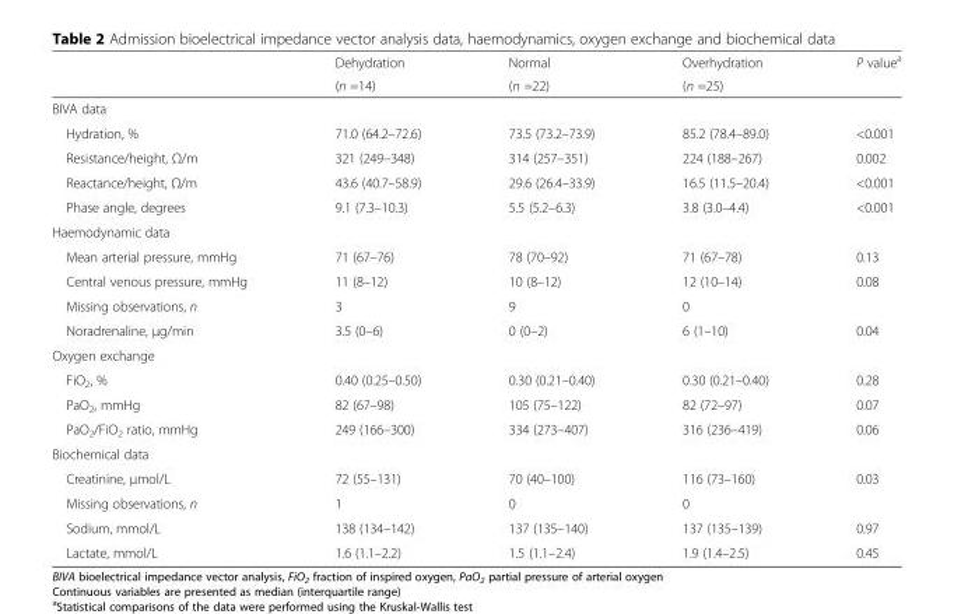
<table><thead><tr><td rowspan="2"></td><td rowspan="2">Dehydration (n =14)</td><td rowspan="2">Normal (n =22)</td><td rowspan="2">Overhydration (n =25)</td><td rowspan="2">P value<sup>a</sup></td></tr><tr></tr></thead><tbody><tr><td colspan="5">BIVA data</td></tr><tr><td>Hydration, %</td><td>71.0 (64.2–72.6)</td><td>73.5 (73.2–73.9)</td><td>85.2 (78.4–89.0)</td><td>&lt;0.001</td></tr><tr><td>Resistance/height, Ω/m</td><td>321 (249–348)</td><td>314 (257–351)</td><td>224 (188–267)</td><td>0.002</td></tr><tr><td>Reactance/height, Ω/m</td><td>43.6 (40.7–58.9)</td><td>29.6 (26.4–33.9)</td><td>16.5 (11.5–20.4)</td><td>&lt;0.001</td></tr><tr><td>Phase angle, degrees</td><td>9.1 (7.3–10.3)</td><td>5.5 (5.2–6.3)</td><td>3.8 (3.0–4.4)</td><td>&lt;0.001</td></tr><tr><td colspan="5">Haemodynamic data</td></tr><tr><td>Mean arterial pressure, mmHg</td><td>71 (67–76)</td><td>78 (70–92)</td><td>71 (67–78)</td><td>0.13</td></tr><tr><td>Central venous pressure, mmHg</td><td>11 (8–12)</td><td>10 (8–12)</td><td>12 (10–14)</td><td>0.08</td></tr><tr><td>Missing observations, n</td><td>3</td><td>9</td><td>0</td><td></td></tr><tr><td>Noradrenaline, μg/min</td><td>3.5 (0–6)</td><td>0 (0–2)</td><td>6 (1–10)</td><td>0.04</td></tr><tr><td colspan="5">Oxygen exchange</td></tr><tr><td>FiO<sub>2</sub>, %</td><td>0.40 (0.25–0.50)</td><td>0.30 (0.21–0.40)</td><td>0.30 (0.21–0.40)</td><td>0.28</td></tr><tr><td>PaO<sub>2</sub>, mmHg</td><td>82 (67–98)</td><td>105 (75–122)</td><td>82 (72–97)</td><td>0.07</td></tr><tr><td>PaO<sub>2</sub>/FiO<sub>2</sub> ratio, mmHg</td><td>249 (166–300)</td><td>334 (273–407)</td><td>316 (236–419)</td><td>0.06</td></tr><tr><td colspan="5">Biochemical data</td></tr><tr><td>Creatinine, μmol/L</td><td>72 (55–131)</td><td>70 (40–100)</td><td>116 (73–160)</td><td>0.03</td></tr><tr><td>Missing observations, n</td><td>1</td><td>0</td><td>0</td><td></td></tr><tr><td>Sodium, mmol/L</td><td>138 (134–142)</td><td>137 (135–140)</td><td>137 (135–139)</td><td>0.97</td></tr><tr><td>Lactate, mmol/L</td><td>1.6 (1.1–2.2)</td><td>1.5 (1.1–2.4)</td><td>1.9 (1.4–2.5)</td><td>0.45</td></tr></tbody></table>